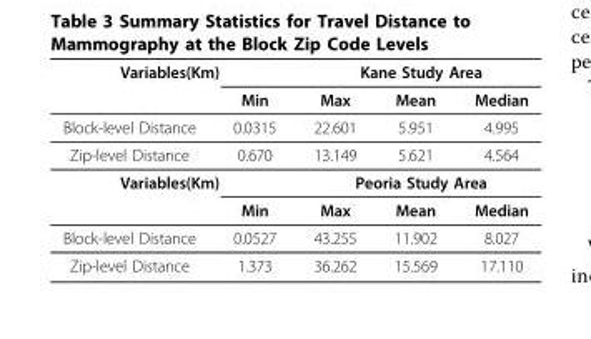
<table><thead><tr><td colspan="2">Variables(Km)</td><td colspan="3">Kane Study Area</td></tr><tr><td></td><td>Min</td><td>Max</td><td>Mean</td><td>Median</td></tr></thead><tbody><tr><td>Block-level Distance</td><td>0.0315</td><td>22.601</td><td>5.951</td><td>4.995</td></tr><tr><td>Zip-level Distance</td><td>0.670</td><td>13.149</td><td>5.621</td><td>4.564</td></tr><tr><td colspan="2">Variables(Km)</td><td colspan="3">Peoria Study Area</td></tr><tr><td></td><td>Min</td><td>Max</td><td>Mean</td><td>Median</td></tr><tr><td>Block-level Distance</td><td>0.0527</td><td>43.255</td><td>11.902</td><td>8.027</td></tr><tr><td>Zip-level Distance</td><td>1.373</td><td>36.262</td><td>15.569</td><td>17.110</td></tr></tbody></table>